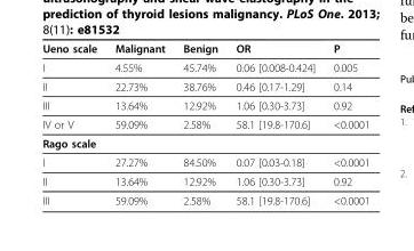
<table><thead><tr><td>Ueno scale</td><td>Malignant</td><td>Benign</td><td>OR</td><td>P</td></tr></thead><tbody><tr><td>I</td><td>4.55%</td><td>45.74%</td><td>0.06 [0.008-0.424]</td><td>0.005</td></tr><tr><td>II</td><td>22.73%</td><td>38.76%</td><td>0.46 [0.17-1.29]</td><td>0.14</td></tr><tr><td>III</td><td>13.64%</td><td>12.92%</td><td>1.06 [0.30-3.73]</td><td>0.92</td></tr><tr><td>IV or V</td><td>59.09%</td><td>2.58%</td><td>58.1 [19.8-170.6]</td><td>&lt;0.0001</td></tr><tr><td colspan="5">Rago scale</td></tr><tr><td>I</td><td>27.27%</td><td>84.50%</td><td>0.07 [0.03-0.18]</td><td>&lt;0.0001</td></tr><tr><td>II</td><td>13.64%</td><td>12.92%</td><td>1.06 [0.30-3.73]</td><td>0.92</td></tr><tr><td>III</td><td>59.09%</td><td>2.58%</td><td>58.1 [19.8-170.6]</td><td>&lt;0.0001</td></tr></tbody></table>